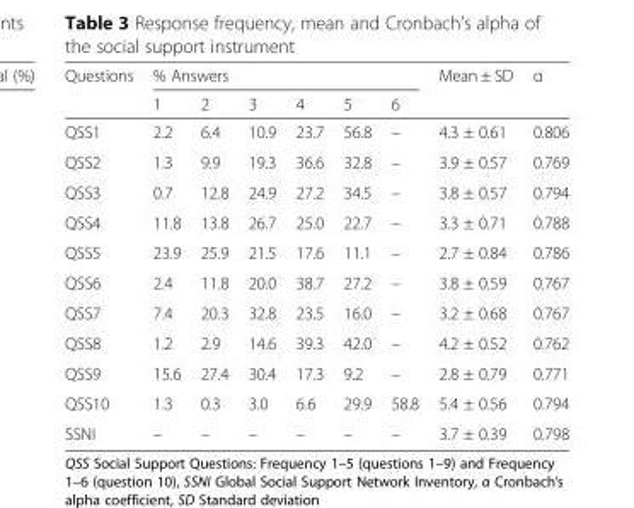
<table><thead><tr><td rowspan="2">Questions</td><td colspan="6">% Answers</td><td rowspan="2">Mean ± SD</td><td rowspan="2">α</td></tr><tr><td>1</td><td>2</td><td>3</td><td>4</td><td>5</td><td>6</td></tr></thead><tbody><tr><td>QSS1</td><td>2.2</td><td>6.4</td><td>10.9</td><td>23.7</td><td>56.8</td><td>–</td><td>4.3 ± 0.61</td><td>0.806</td></tr><tr><td>QSS2</td><td>1.3</td><td>9.9</td><td>19.3</td><td>36.6</td><td>32.8</td><td>–</td><td>3.9 ± 0.57</td><td>0.769</td></tr><tr><td>QSS3</td><td>0.7</td><td>12.8</td><td>24.9</td><td>27.2</td><td>34.5</td><td>–</td><td>3.8 ± 0.57</td><td>0.794</td></tr><tr><td>QSS4</td><td>11.8</td><td>13.8</td><td>26.7</td><td>25.0</td><td>22.7</td><td>–</td><td>3.3 ± 0.71</td><td>0.788</td></tr><tr><td>QSS5</td><td>23.9</td><td>25.9</td><td>21.5</td><td>17.6</td><td>11.1</td><td>–</td><td>2.7 ± 0.84</td><td>0.786</td></tr><tr><td>QSS6</td><td>2.4</td><td>11.8</td><td>20.0</td><td>38.7</td><td>27.2</td><td>–</td><td>3.8 ± 0.59</td><td>0.767</td></tr><tr><td>QSS7</td><td>7.4</td><td>20.3</td><td>32.8</td><td>23.5</td><td>16.0</td><td>–</td><td>3.2 ± 0.68</td><td>0.767</td></tr><tr><td>QSS8</td><td>1.2</td><td>2.9</td><td>14.6</td><td>39.3</td><td>42.0</td><td>–</td><td>4.2 ± 0.52</td><td>0.762</td></tr><tr><td>QSS9</td><td>15.6</td><td>27.4</td><td>30.4</td><td>17.3</td><td>9.2</td><td>–</td><td>2.8 ± 0.79</td><td>0.771</td></tr><tr><td>QSS10</td><td>1.3</td><td>0.3</td><td>3.0</td><td>6.6</td><td>29.9</td><td>58.8</td><td>5.4 ± 0.56</td><td>0.794</td></tr><tr><td>SSNI</td><td>–</td><td>–</td><td>–</td><td>–</td><td>–</td><td>–</td><td>3.7 ± 0.39</td><td>0.798</td></tr></tbody></table>